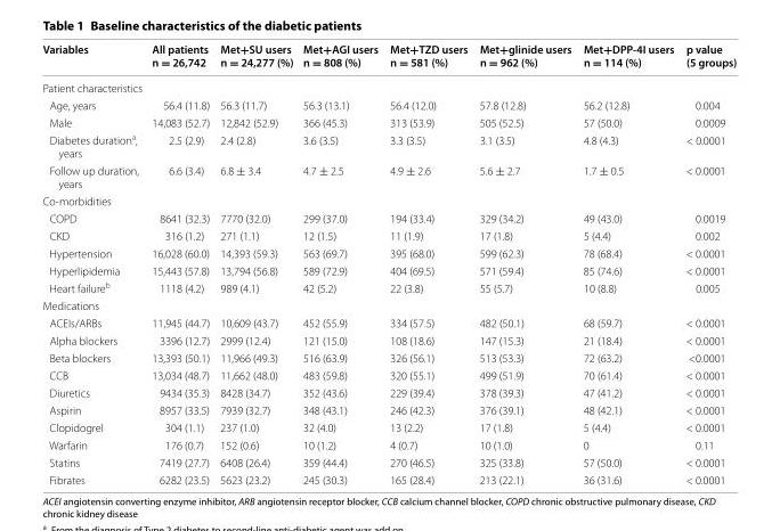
<table><thead><tr><td>Variables</td><td>All patients n = 26,742</td><td>Met+SU users n = 24,277 (%)</td><td>Met+AGI users n = 808 (%)</td><td>Met+TZD users n = 581 (%)</td><td>Met+glinide users n = 962 (%)</td><td>Met+DPP‑4I users n = 114 (%)</td><td>p value (5 groups)</td></tr></thead><tbody><tr><td colspan="8">Patient characteristics</td></tr><tr><td>Age, years</td><td>56.4 (11.8)</td><td>56.3 (11.7)</td><td>56.3 (13.1)</td><td>56.4 (12.0)</td><td>57.8 (12.8)</td><td>56.2 (12.8)</td><td>0.004</td></tr><tr><td>Male</td><td>14,083 (52.7)</td><td>12,842 (52.9)</td><td>366 (45.3)</td><td>313 (53.9)</td><td>505 (52.5)</td><td>57 (50.0)</td><td>0.0009</td></tr><tr><td>Diabetes duration<sup>a</sup>, years</td><td>2.5 (2.9)</td><td>2.4 (2.8)</td><td>3.6 (3.5)</td><td>3.3 (3.5)</td><td>3.1 (3.5)</td><td>4.8 (4.3)</td><td>&lt; 0.0001</td></tr><tr><td>Follow up duration, years</td><td>6.6 (3.4)</td><td>6.8 ± 3.4</td><td>4.7 ± 2.5</td><td>4.9 ± 2.6</td><td>5.6 ± 2.7</td><td>1.7 ± 0.5</td><td>&lt; 0.0001</td></tr><tr><td colspan="8">Co‑morbidities</td></tr><tr><td>COPD</td><td>8641 (32.3)</td><td>7770 (32.0)</td><td>299 (37.0)</td><td>194 (33.4)</td><td>329 (34.2)</td><td>49 (43.0)</td><td>0.0019</td></tr><tr><td>CKD</td><td>316 (1.2)</td><td>271 (1.1)</td><td>12 (1.5)</td><td>11 (1.9)</td><td>17 (1.8)</td><td>5 (4.4)</td><td>0.002</td></tr><tr><td>Hypertension</td><td>16,028 (60.0)</td><td>14,393 (59.3)</td><td>563 (69.7)</td><td>395 (68.0)</td><td>599 (62.3)</td><td>78 (68.4)</td><td>&lt; 0.0001</td></tr><tr><td>Hyperlipidemia</td><td>15,443 (57.8)</td><td>13,794 (56.8)</td><td>589 (72.9)</td><td>404 (69.5)</td><td>571 (59.4)</td><td>85 (74.6)</td><td>&lt; 0.0001</td></tr><tr><td>Heart failure<sup>b</sup></td><td>1118 (4.2)</td><td>989 (4.1)</td><td>42 (5.2)</td><td>22 (3.8)</td><td>55 (5.7)</td><td>10 (8.8)</td><td>0.005</td></tr><tr><td colspan="8">Medications</td></tr><tr><td>ACEIs/ARBs</td><td>11,945 (44.7)</td><td>10,609 (43.7)</td><td>452 (55.9)</td><td>334 (57.5)</td><td>482 (50.1)</td><td>68 (59.7)</td><td>&lt; 0.0001</td></tr><tr><td>Alpha blockers</td><td>3396 (12.7)</td><td>2999 (12.4)</td><td>121 (15.0)</td><td>108 (18.6)</td><td>147 (15.3)</td><td>21 (18.4)</td><td>&lt; 0.0001</td></tr><tr><td>Beta blockers</td><td>13,393 (50.1)</td><td>11,966 (49.3)</td><td>516 (63.9)</td><td>326 (56.1)</td><td>513 (53.3)</td><td>72 (63.2)</td><td>&lt;0.0001</td></tr><tr><td>CCB</td><td>13,034 (48.7)</td><td>11,662 (48.0)</td><td>483 (59.8)</td><td>320 (55.1)</td><td>499 (51.9)</td><td>70 (61.4)</td><td>&lt; 0.0001</td></tr><tr><td>Diuretics</td><td>9434 (35.3)</td><td>8428 (34.7)</td><td>352 (43.6)</td><td>229 (39.4)</td><td>378 (39.3)</td><td>47 (41.2)</td><td>&lt; 0.0001</td></tr><tr><td>Aspirin</td><td>8957 (33.5)</td><td>7939 (32.7)</td><td>348 (43.1)</td><td>246 (42.3)</td><td>376 (39.1)</td><td>48 (42.1)</td><td>&lt; 0.0001</td></tr><tr><td>Clopidogrel</td><td>304 (1.1)</td><td>237 (1.0)</td><td>32 (4.0)</td><td>13 (2.2)</td><td>17 (1.8)</td><td>5 (4.4)</td><td>&lt; 0.0001</td></tr><tr><td>Warfarin</td><td>176 (0.7)</td><td>152 (0.6)</td><td>10 (1.2)</td><td>4 (0.7)</td><td>10 (1.0)</td><td>0</td><td>0.11</td></tr><tr><td>Statins</td><td>7419 (27.7)</td><td>6408 (26.4)</td><td>359 (44.4)</td><td>270 (46.5)</td><td>325 (33.8)</td><td>57 (50.0)</td><td>&lt; 0.0001</td></tr><tr><td>Fibrates</td><td>6282 (23.5)</td><td>5623 (23.2)</td><td>245 (30.3)</td><td>165 (28.4)</td><td>213 (22.1)</td><td>36 (31.6)</td><td>&lt; 0.0001</td></tr></tbody></table>